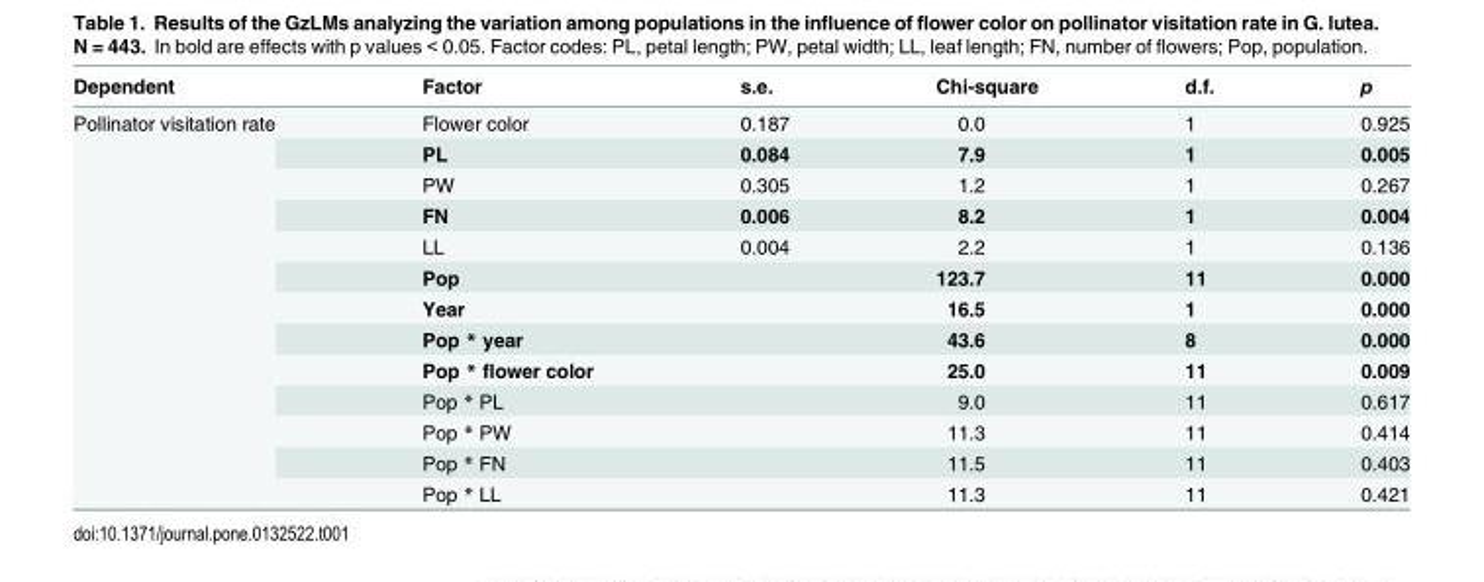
<table><thead><tr><td>Dependent</td><td>Factor</td><td>s.e.</td><td>Chi-square</td><td>d.f.</td><td>p</td></tr></thead><tbody><tr><td rowspan="13">Pollinator visitation rate</td><td>Flower color</td><td>0.187</td><td>0.0</td><td>1</td><td>0.925</td></tr><tr><td>PL</td><td>0.084</td><td>7.9</td><td>1</td><td>0.005</td></tr><tr><td>PW</td><td>0.305</td><td>1.2</td><td>1</td><td>0.267</td></tr><tr><td>FN</td><td>0.006</td><td>8.2</td><td>1</td><td>0.004</td></tr><tr><td>LL</td><td>0.004</td><td>2.2</td><td>1</td><td>0.136</td></tr><tr><td>Pop</td><td></td><td>123.7</td><td>11</td><td>0.000</td></tr><tr><td>Year</td><td></td><td>16.5</td><td>1</td><td>0.000</td></tr><tr><td>Pop * year</td><td></td><td>43.6</td><td>8</td><td>0.000</td></tr><tr><td>Pop * flower color</td><td></td><td>25.0</td><td>11</td><td>0.009</td></tr><tr><td>Pop * PL</td><td></td><td>9.0</td><td>11</td><td>0.617</td></tr><tr><td>Pop * PW</td><td></td><td>11.3</td><td>11</td><td>0.414</td></tr><tr><td>Pop * FN</td><td></td><td>11.5</td><td>11</td><td>0.403</td></tr><tr><td>Pop * LL</td><td></td><td>11.3</td><td>11</td><td>0.421</td></tr></tbody></table>